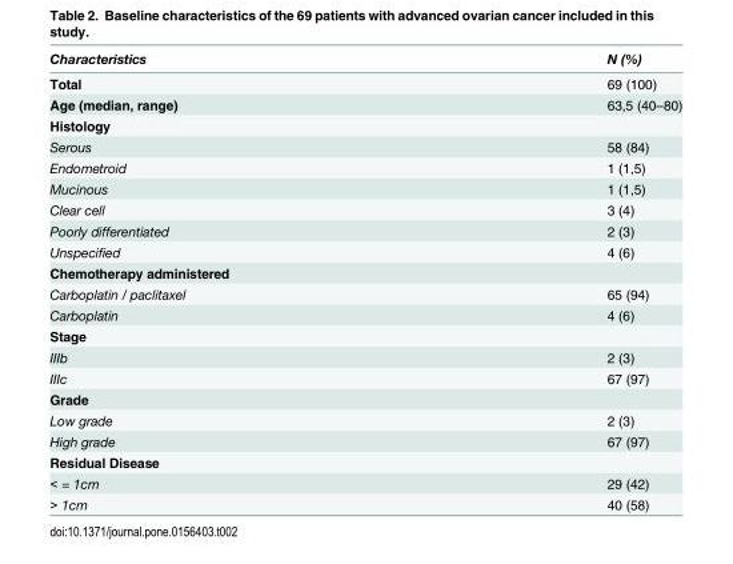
<table><thead><tr><td>Characteristics</td><td>N (%)</td></tr></thead><tbody><tr><td>Total</td><td>69 (100)</td></tr><tr><td>Age (median, range)</td><td>63,5 (40–80)</td></tr><tr><td colspan="2">Histology</td></tr><tr><td>Serous</td><td>58 (84)</td></tr><tr><td>Endometroid</td><td>1 (1,5)</td></tr><tr><td>Mucinous</td><td>1 (1,5)</td></tr><tr><td>Clear cell</td><td>3 (4)</td></tr><tr><td>Poorly differentiated</td><td>2 (3)</td></tr><tr><td>Unspecified</td><td>4 (6)</td></tr><tr><td colspan="2">Chemotherapy administered</td></tr><tr><td>Carboplatin / paclitaxel</td><td>65 (94)</td></tr><tr><td>Carboplatin</td><td>4 (6)</td></tr><tr><td colspan="2">Stage</td></tr><tr><td>IIIb</td><td>2 (3)</td></tr><tr><td>IIIc</td><td>67 (97)</td></tr><tr><td colspan="2">Grade</td></tr><tr><td>Low grade</td><td>2 (3)</td></tr><tr><td>High grade</td><td>67 (97)</td></tr><tr><td colspan="2">Residual Disease</td></tr><tr><td>&lt; = 1cm</td><td>29 (42)</td></tr><tr><td>&gt; 1cm</td><td>40 (58)</td></tr></tbody></table>